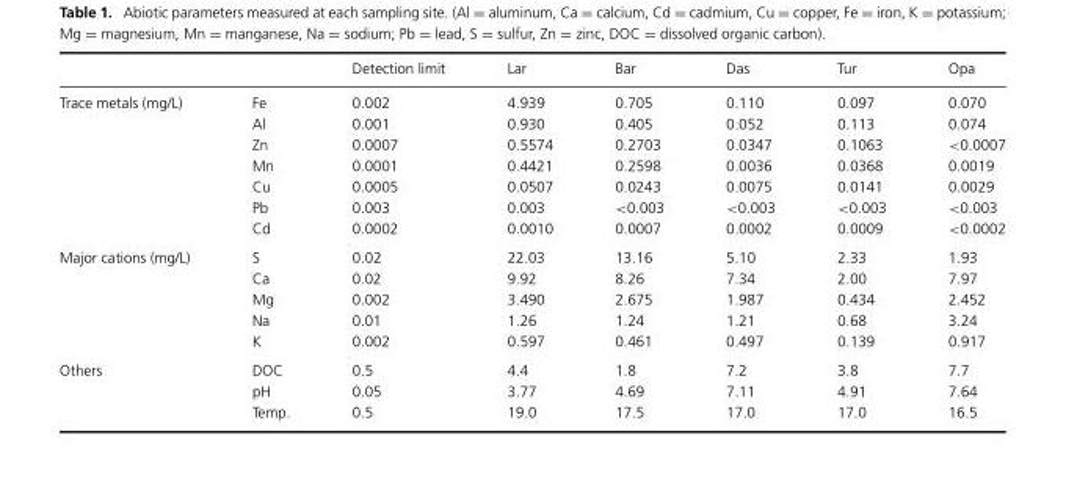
<table><thead><tr><td></td><td></td><td>Detection limit</td><td>Lar</td><td>Bar</td><td>Das</td><td>Tur</td><td>Opa</td></tr></thead><tbody><tr><td rowspan="7">Trace metals (mg/L)</td><td>Fe</td><td>0.002</td><td>4.939</td><td>0.705</td><td>0.110</td><td>0.097</td><td>0.070</td></tr><tr><td>Al</td><td>0.001</td><td>0.930</td><td>0.405</td><td>0.052</td><td>0.113</td><td>0.074</td></tr><tr><td>Zn</td><td>0.0007</td><td>0.5574</td><td>0.2703</td><td>0.0347</td><td>0.1063</td><td>&lt;0.0007</td></tr><tr><td>Mn</td><td>0.0001</td><td>0.4421</td><td>0.2598</td><td>0.0036</td><td>0.0368</td><td>0.0019</td></tr><tr><td>Cu</td><td>0.0005</td><td>0.0507</td><td>0.0243</td><td>0.0075</td><td>0.0141</td><td>0.0029</td></tr><tr><td>Pb</td><td>0.003</td><td>0.003</td><td>&lt;0.003</td><td>&lt;0.003</td><td>&lt;0.003</td><td>&lt;0.003</td></tr><tr><td>Cd</td><td>0.0002</td><td>0.0010</td><td>0.0007</td><td>0.0002</td><td>0.0009</td><td>&lt;0.0002</td></tr><tr><td rowspan="5">Major cations (mg/L)</td><td>S</td><td>0.02</td><td>22.03</td><td>13.16</td><td>5.10</td><td>2.33</td><td>1.93</td></tr><tr><td>Ca</td><td>0.02</td><td>9.92</td><td>8.26</td><td>7.34</td><td>2.00</td><td>7.97</td></tr><tr><td>Mg</td><td>0.002</td><td>3.490</td><td>2.675</td><td>1.987</td><td>0.434</td><td>2.452</td></tr><tr><td>Na</td><td>0.01</td><td>1.26</td><td>1.24</td><td>1.21</td><td>0.68</td><td>3.24</td></tr><tr><td>K</td><td>0.002</td><td>0.597</td><td>0.461</td><td>0.497</td><td>0.139</td><td>0.917</td></tr><tr><td rowspan="3">Others</td><td>DOC</td><td>0.5</td><td>4.4</td><td>1.8</td><td>7.2</td><td>3.8</td><td>7.7</td></tr><tr><td>pH</td><td>0.05</td><td>3.77</td><td>4.69</td><td>7.11</td><td>4.91</td><td>7.64</td></tr><tr><td>Temp.</td><td>0.5</td><td>19.0</td><td>17.5</td><td>17.0</td><td>17.0</td><td>16.5</td></tr></tbody></table>